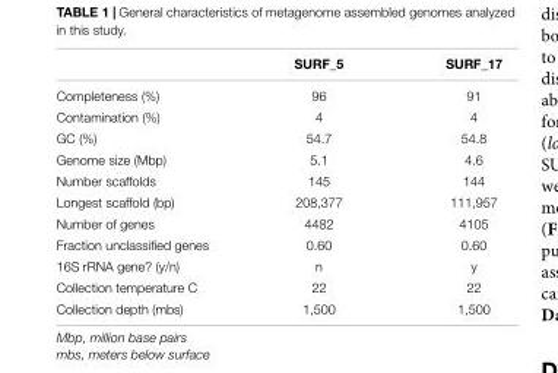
<table><thead><tr><td></td><td>SURF_5</td><td>SURF_17</td></tr></thead><tbody><tr><td>Completeness (%)</td><td>96</td><td>91</td></tr><tr><td>Contamination (%)</td><td>4</td><td>4</td></tr><tr><td>GC (%)</td><td>54.7</td><td>54.8</td></tr><tr><td>Genome size (Mbp)</td><td>5.1</td><td>4.6</td></tr><tr><td>Number scaffolds</td><td>145</td><td>144</td></tr><tr><td>Longest scaffold (bp)</td><td>208,377</td><td>111,957</td></tr><tr><td>Number of genes</td><td>4482</td><td>4105</td></tr><tr><td>Fraction unclassified genes</td><td>0.60</td><td>0.60</td></tr><tr><td>16S rRNA gene? (y/n)</td><td>n</td><td>y</td></tr><tr><td>Collection temperature C</td><td>22</td><td>22</td></tr><tr><td>Collection depth (mbs)</td><td>1,500</td><td>1,500</td></tr></tbody></table>